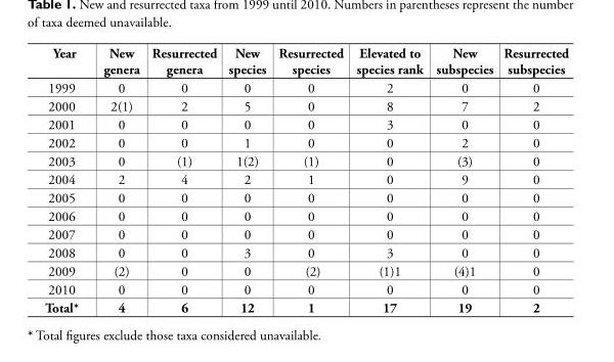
<table><thead><tr><td>Year</td><td>New genera</td><td>Resurrected genera</td><td>New species</td><td>Resurrected species</td><td>Elevated to species rank</td><td>New subspecies</td><td>Resurrected subspecies</td></tr></thead><tbody><tr><td>1999</td><td>0</td><td>0</td><td>0</td><td>0</td><td>2</td><td>0</td><td>0</td></tr><tr><td>2000</td><td>2(1)</td><td>2</td><td>5</td><td>0</td><td>8</td><td>7</td><td>2</td></tr><tr><td>2001</td><td>0</td><td>0</td><td>0</td><td>0</td><td>3</td><td>0</td><td>0</td></tr><tr><td>2002</td><td>0</td><td>0</td><td>1</td><td>0</td><td>0</td><td>2</td><td>0</td></tr><tr><td>2003</td><td>0</td><td>(1)</td><td>1(2)</td><td>(1)</td><td>0</td><td>(3)</td><td>0</td></tr><tr><td>2004</td><td>2</td><td>4</td><td>2</td><td>1</td><td>0</td><td>9</td><td>0</td></tr><tr><td>2005</td><td>0</td><td>0</td><td>0</td><td>0</td><td>0</td><td>0</td><td>0</td></tr><tr><td>2006</td><td>0</td><td>0</td><td>0</td><td>0</td><td>0</td><td>0</td><td>0</td></tr><tr><td>2007</td><td>0</td><td>0</td><td>0</td><td>0</td><td>0</td><td>0</td><td>0</td></tr><tr><td>2008</td><td>0</td><td>0</td><td>3</td><td>0</td><td>3</td><td>0</td><td>0</td></tr><tr><td>2009</td><td>(2)</td><td>0</td><td>0</td><td>(2)</td><td>(1)1</td><td>(4)1</td><td>0</td></tr><tr><td>2010</td><td>0</td><td>0</td><td>0</td><td>0</td><td>0</td><td>0</td><td>0</td></tr><tr><td>Total*</td><td>4</td><td>6</td><td>12</td><td>1</td><td>17</td><td>19</td><td>2</td></tr></tbody></table>